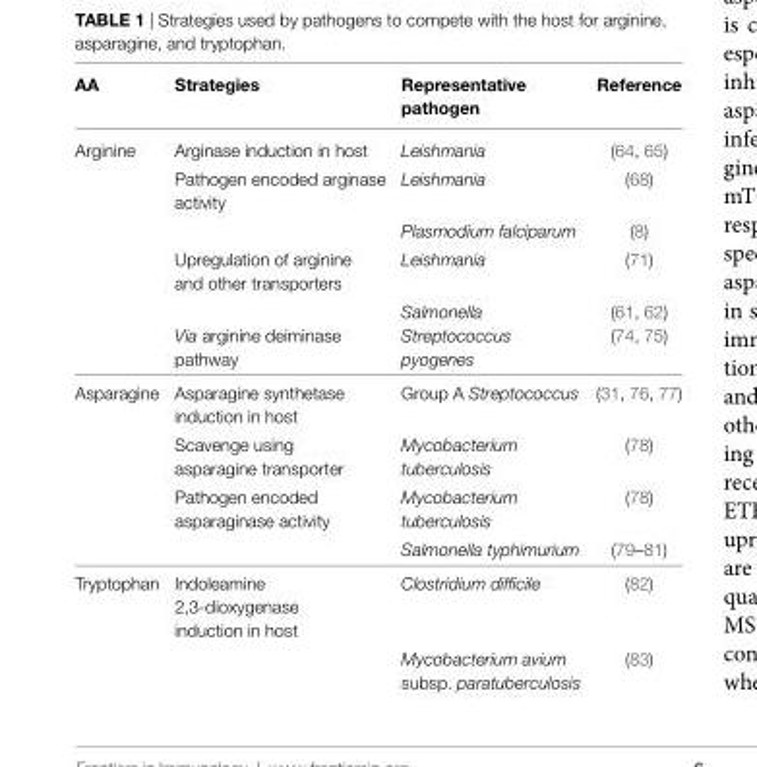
<table><thead><tr><td>AA</td><td>Strategies</td><td>Representative pathogen</td><td>Reference</td></tr></thead><tbody><tr><td rowspan="6">Arginine</td><td>Arginase induction in host</td><td>Leishmania</td><td>(64, 65)</td></tr><tr><td>Pathogen encoded arginase activity</td><td>Leishmania</td><td>(68)</td></tr><tr><td></td><td>Plasmodium falciparum</td><td>(8)</td></tr><tr><td>Upregulation of arginine and other transporters</td><td>Leishmania</td><td>(71)</td></tr><tr><td></td><td>Salmonella</td><td>(61, 62)</td></tr><tr><td>Via arginine deiminase pathway</td><td>Streptococcus pyogenes</td><td>(74, 75)</td></tr><tr><td rowspan="4">Asparagine</td><td>Asparagine synthetase induction in host</td><td>Group A Streptococcus</td><td>(31, 76, 77)</td></tr><tr><td>Scavenge using asparagine transporter</td><td>Mycobacterium tuberculosis</td><td>(78)</td></tr><tr><td>Pathogen encoded asparaginase activity</td><td>Mycobacterium tuberculosis</td><td>(78)</td></tr><tr><td></td><td>Salmonella typhimurium</td><td>(79–81)</td></tr><tr><td rowspan="2">Tryptophan</td><td>Indoleamine 2,3-dioxygenase induction in host</td><td>Clostridium difficile</td><td>(82)</td></tr><tr><td></td><td>Mycobacterium avium subsp. paratuberculosis</td><td>(83)</td></tr></tbody></table>